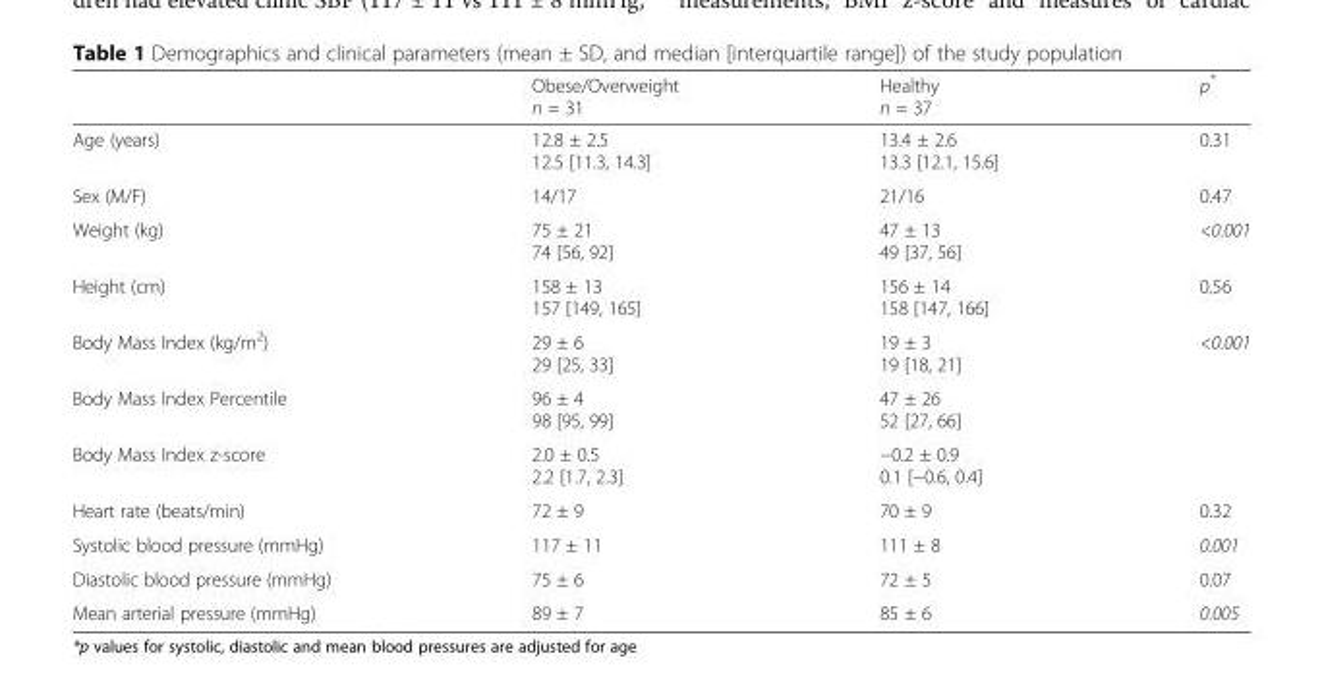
<table><thead><tr><td></td><td>Obese/Overweight n = 31</td><td>Healthy n = 37</td><td>p*</td></tr></thead><tbody><tr><td>Age (years)</td><td>12.8 ± 2.5 12.5 [11.3, 14.3]</td><td>13.4 ± 2.6 13.3 [12.1, 15.6]</td><td>0.31</td></tr><tr><td>Sex (M/F)</td><td>14/17</td><td>21/16</td><td>0.47</td></tr><tr><td>Weight (kg)</td><td>75 ± 21 74 [56, 92]</td><td>47 ± 13 49 [37, 56]</td><td>&lt;0.001</td></tr><tr><td>Height (cm)</td><td>158 ± 13 157 [149, 165]</td><td>156 ± 14 158 [147, 166]</td><td>0.56</td></tr><tr><td>Body Mass Index (kg/m<sup>2</sup>)</td><td>29 ± 6 29 [25, 33]</td><td>19 ± 3 19 [18, 21]</td><td>&lt;0.001</td></tr><tr><td>Body Mass Index Percentile</td><td>96 ± 4 98 [95, 99]</td><td>47 ± 26 52 [27, 66]</td><td></td></tr><tr><td>Body Mass Index z-score</td><td>2.0 ± 0.5 2.2 [1.7, 2.3]</td><td>−0.2 ± 0.9 0.1 [−0.6, 0.4]</td><td></td></tr><tr><td>Heart rate (beats/min)</td><td>72 ± 9</td><td>70 ± 9</td><td>0.32</td></tr><tr><td>Systolic blood pressure (mmHg)</td><td>117 ± 11</td><td>111 ± 8</td><td>0.001</td></tr><tr><td>Diastolic blood pressure (mmHg)</td><td>75 ± 6</td><td>72 ± 5</td><td>0.07</td></tr><tr><td>Mean arterial pressure (mmHg)</td><td>89 ± 7</td><td>85 ± 6</td><td>0.005</td></tr></tbody></table>